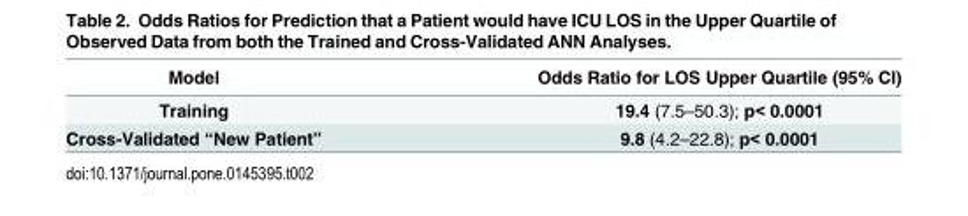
<table><thead><tr><td>Model</td><td>Odds Ratio for LOS Upper Quartile (95% CI)</td></tr></thead><tbody><tr><td>Training</td><td>19.4 (7.5–50.3); p&lt; 0.0001</td></tr><tr><td>Cross-Validated “New Patient”</td><td>9.8 (4.2–22.8); p&lt; 0.0001</td></tr></tbody></table>